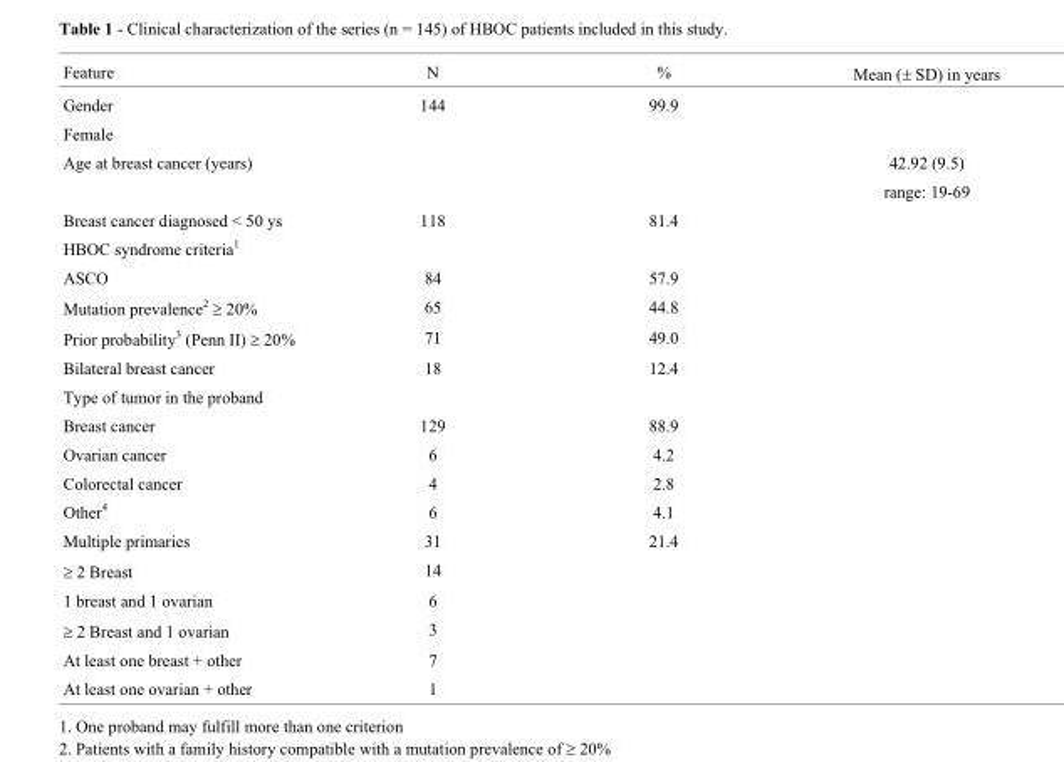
<table><thead><tr><td>Feature</td><td>N</td><td>%</td><td>Mean (± SD) in years</td></tr></thead><tbody><tr><td>Gender</td><td>144</td><td>99.9</td><td></td></tr><tr><td colspan="4">Female</td></tr><tr><td rowspan="2">Age at breast cancer (years)</td><td></td><td></td><td>42.92 (9.5)</td></tr><tr><td></td><td></td><td>range: 19-69</td></tr><tr><td>Breast cancer diagnosed &lt; 50 ys</td><td>118</td><td>81.4</td><td></td></tr><tr><td colspan="4">HBOC syndrome criteria<sup>1</sup></td></tr><tr><td>ASCO</td><td>84</td><td>57.9</td><td></td></tr><tr><td>Mutation prevalence<sup>2</sup> ≥ 20%</td><td>65</td><td>44.8</td><td></td></tr><tr><td>Prior probability<sup>3</sup> (Penn II) ≥ 20%</td><td>71</td><td>49.0</td><td></td></tr><tr><td>Bilateral breast cancer</td><td>18</td><td>12.4</td><td></td></tr><tr><td colspan="4">Type of tumor in the proband</td></tr><tr><td>Breast cancer</td><td>129</td><td>88.9</td><td></td></tr><tr><td>Ovarian cancer</td><td>6</td><td>4.2</td><td></td></tr><tr><td>Colorectal cancer</td><td>4</td><td>2.8</td><td></td></tr><tr><td>Other<sup>4</sup></td><td>6</td><td>4.1</td><td></td></tr><tr><td>Multiple primaries</td><td>31</td><td>21.4</td><td></td></tr><tr><td>≥ 2 Breast</td><td>14</td><td></td><td></td></tr><tr><td>1 breast and 1 ovarian</td><td>6</td><td></td><td></td></tr><tr><td>≥ 2 Breast and 1 ovarian</td><td>3</td><td></td><td></td></tr><tr><td>At least one breast + other</td><td>7</td><td></td><td></td></tr><tr><td>At least one ovarian + other</td><td>1</td><td></td><td></td></tr></tbody></table>